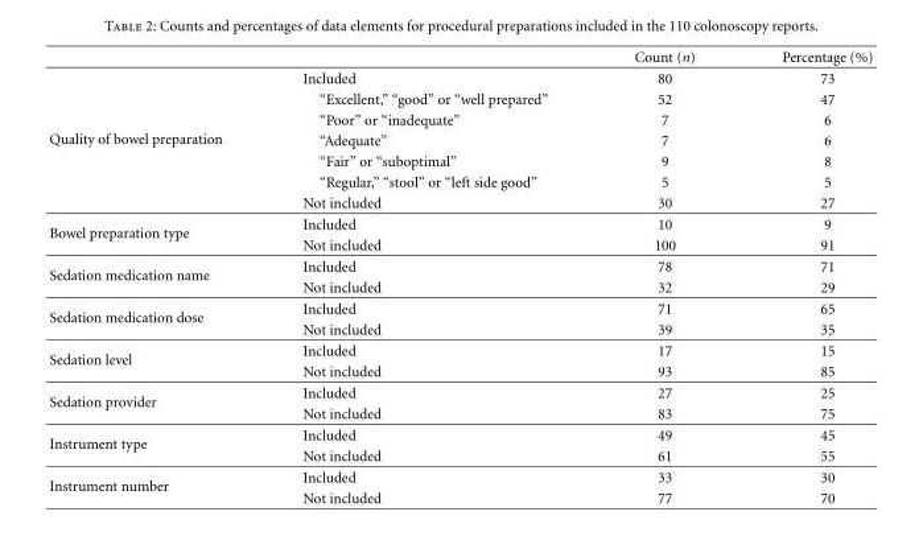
<table><thead><tr><td></td><td></td><td>Count (n)</td><td>Percentage (%)</td></tr></thead><tbody><tr><td rowspan="7">Quality of bowel preparation</td><td>Included</td><td>80</td><td>73</td></tr><tr><td>“Excellent,” “good” or “well prepared”</td><td>52</td><td>47</td></tr><tr><td>“Poor” or “inadequate”</td><td>7</td><td>6</td></tr><tr><td>“Adequate”</td><td>7</td><td>6</td></tr><tr><td>“Fair” or “suboptimal”</td><td>9</td><td>8</td></tr><tr><td>“Regular,” “stool” or “left side good”</td><td>5</td><td>5</td></tr><tr><td>Not included</td><td>30</td><td>27</td></tr><tr><td rowspan="2">Bowel preparation type</td><td>Included</td><td>10</td><td>9</td></tr><tr><td>Not included</td><td>100</td><td>91</td></tr><tr><td rowspan="2">Sedation medication name</td><td>Included</td><td>78</td><td>71</td></tr><tr><td>Not included</td><td>32</td><td>29</td></tr><tr><td rowspan="2">Sedation medication dose</td><td>Included</td><td>71</td><td>65</td></tr><tr><td>Not included</td><td>39</td><td>35</td></tr><tr><td rowspan="2">Sedation level</td><td>Included</td><td>17</td><td>15</td></tr><tr><td>Not included</td><td>93</td><td>85</td></tr><tr><td rowspan="2">Sedation provider</td><td>Included</td><td>27</td><td>25</td></tr><tr><td>Not included</td><td>83</td><td>75</td></tr><tr><td rowspan="2">Instrument type</td><td>Included</td><td>49</td><td>45</td></tr><tr><td>Not included</td><td>61</td><td>55</td></tr><tr><td rowspan="2">Instrument number</td><td>Included</td><td>33</td><td>30</td></tr><tr><td>Not included</td><td>77</td><td>70</td></tr></tbody></table>